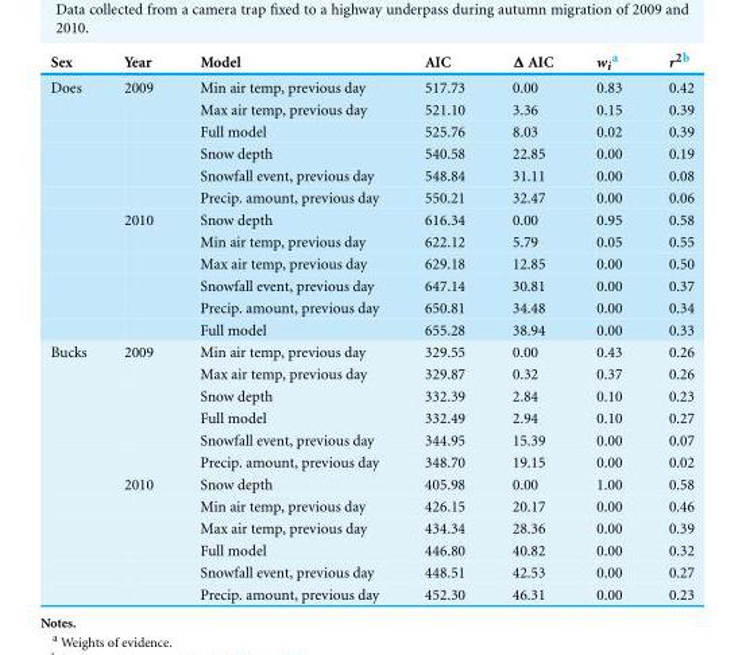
<table><thead><tr><td>Sex</td><td>Year</td><td>Model</td><td>AIC</td><td>Δ AIC</td><td>w<sub>i</sub><sup>a</sup></td><td>r<sup>2b</sup></td></tr></thead><tbody><tr><td rowspan="12">Does</td><td>2009</td><td>Min air temp, previous day</td><td>517.73</td><td>0.00</td><td>0.83</td><td>0.42</td></tr><tr><td></td><td>Max air temp, previous day</td><td>521.10</td><td>3.36</td><td>0.15</td><td>0.39</td></tr><tr><td></td><td>Full model</td><td>525.76</td><td>8.03</td><td>0.02</td><td>0.39</td></tr><tr><td></td><td>Snow depth</td><td>540.58</td><td>22.85</td><td>0.00</td><td>0.19</td></tr><tr><td></td><td>Snowfall event, previous day</td><td>548.84</td><td>31.11</td><td>0.00</td><td>0.08</td></tr><tr><td></td><td>Precip. amount, previous day</td><td>550.21</td><td>32.47</td><td>0.00</td><td>0.06</td></tr><tr><td>2010</td><td>Snow depth</td><td>616.34</td><td>0.00</td><td>0.95</td><td>0.58</td></tr><tr><td></td><td>Min air temp, previous day</td><td>622.12</td><td>5.79</td><td>0.05</td><td>0.55</td></tr><tr><td></td><td>Max air temp, previous day</td><td>629.18</td><td>12.85</td><td>0.00</td><td>0.50</td></tr><tr><td></td><td>Snowfall event, previous day</td><td>647.14</td><td>30.81</td><td>0.00</td><td>0.37</td></tr><tr><td></td><td>Precip. amount, previous day</td><td>650.81</td><td>34.48</td><td>0.00</td><td>0.34</td></tr><tr><td></td><td>Full model</td><td>655.28</td><td>38.94</td><td>0.00</td><td>0.33</td></tr><tr><td rowspan="12">Bucks</td><td>2009</td><td>Min air temp, previous day</td><td>329.55</td><td>0.00</td><td>0.43</td><td>0.26</td></tr><tr><td></td><td>Max air temp, previous day</td><td>329.87</td><td>0.32</td><td>0.37</td><td>0.26</td></tr><tr><td></td><td>Snow depth</td><td>332.39</td><td>2.84</td><td>0.10</td><td>0.23</td></tr><tr><td></td><td>Full model</td><td>332.49</td><td>2.94</td><td>0.10</td><td>0.27</td></tr><tr><td></td><td>Snowfall event, previous day</td><td>344.95</td><td>15.39</td><td>0.00</td><td>0.07</td></tr><tr><td></td><td>Precip. amount, previous day</td><td>348.70</td><td>19.15</td><td>0.00</td><td>0.02</td></tr><tr><td>2010</td><td>Snow depth</td><td>405.98</td><td>0.00</td><td>1.00</td><td>0.58</td></tr><tr><td></td><td>Min air temp, previous day</td><td>426.15</td><td>20.17</td><td>0.00</td><td>0.46</td></tr><tr><td></td><td>Max air temp, previous day</td><td>434.34</td><td>28.36</td><td>0.00</td><td>0.39</td></tr><tr><td></td><td>Full model</td><td>446.80</td><td>40.82</td><td>0.00</td><td>0.32</td></tr><tr><td></td><td>Snowfall event, previous day</td><td>448.51</td><td>42.53</td><td>0.00</td><td>0.27</td></tr><tr><td></td><td>Precip. amount, previous day</td><td>452.30</td><td>46.31</td><td>0.00</td><td>0.23</td></tr></tbody></table>